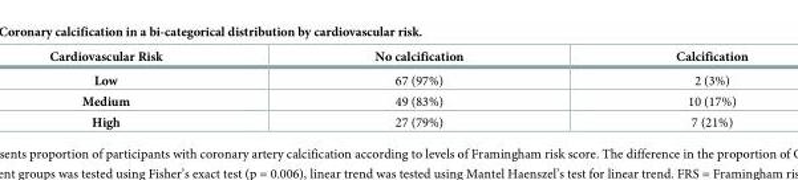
<table><thead><tr><td>Cardiovascular Risk</td><td>No calcification</td><td>Calcification</td></tr></thead><tbody><tr><td>Low</td><td>67 (97%)</td><td>2 (3%)</td></tr><tr><td>Medium</td><td>49 (83%)</td><td>10 (17%)</td></tr><tr><td>High</td><td>27 (79%)</td><td>7 (21%)</td></tr></tbody></table>